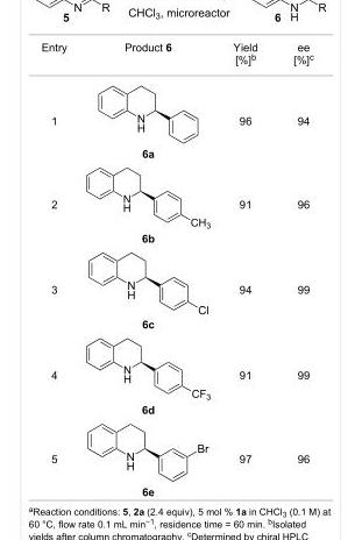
<table><tbody><tr><td>Entry</td><td>Product 6</td><td>Yield [%]<sup>b</sup></td><td>ee [%]<sup>c</sup></td></tr><tr><td>1</td><td>6a</td><td>96</td><td>94</td></tr><tr><td>2</td><td>6b</td><td>91</td><td>96</td></tr><tr><td>3</td><td>6c</td><td>94</td><td>99</td></tr><tr><td>4</td><td>6d</td><td>91</td><td>99</td></tr><tr><td>5</td><td>6e</td><td>97</td><td>96</td></tr></tbody></table>